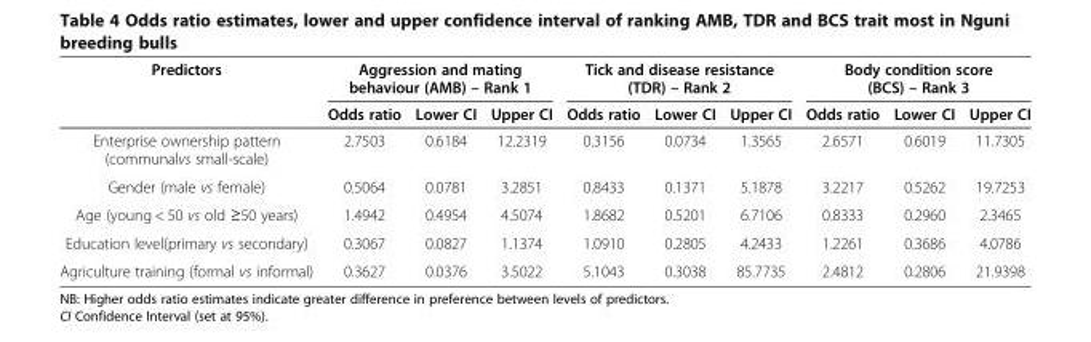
<table><thead><tr><td rowspan="2">Predictors</td><td colspan="3">Aggression and mating behaviour (AMB) – Rank 1</td><td colspan="3">Tick and disease resistance (TDR) – Rank 2</td><td colspan="3">Body condition score (BCS) – Rank 3</td></tr><tr><td>Odds ratio</td><td>Lower CI</td><td>Upper CI</td><td>Odds ratio</td><td>Lower CI</td><td>Upper CI</td><td>Odds ratio</td><td>Lower CI</td><td>Upper CI</td></tr></thead><tbody><tr><td>Enterprise ownership pattern (communalvs small-scale)</td><td>2.7503</td><td>0.6184</td><td>12.2319</td><td>0.3156</td><td>0.0734</td><td>1.3565</td><td>2.6571</td><td>0.6019</td><td>11.7305</td></tr><tr><td>Gender (male vs female)</td><td>0.5064</td><td>0.0781</td><td>3.2851</td><td>0.8433</td><td>0.1371</td><td>5.1878</td><td>3.2217</td><td>0.5262</td><td>19.7253</td></tr><tr><td>Age (young &lt; 50 vs old ≥50 years)</td><td>1.4942</td><td>0.4954</td><td>4.5074</td><td>1.8682</td><td>0.5201</td><td>6.7106</td><td>0.8333</td><td>0.2960</td><td>2.3465</td></tr><tr><td>Education level(primary vs secondary)</td><td>0.3067</td><td>0.0827</td><td>1.1374</td><td>1.0910</td><td>0.2805</td><td>4.2433</td><td>1.2261</td><td>0.3686</td><td>4.0786</td></tr><tr><td>Agriculture training (formal vs informal)</td><td>0.3627</td><td>0.0376</td><td>3.5022</td><td>5.1043</td><td>0.3038</td><td>85.7735</td><td>2.4812</td><td>0.2806</td><td>21.9398</td></tr></tbody></table>